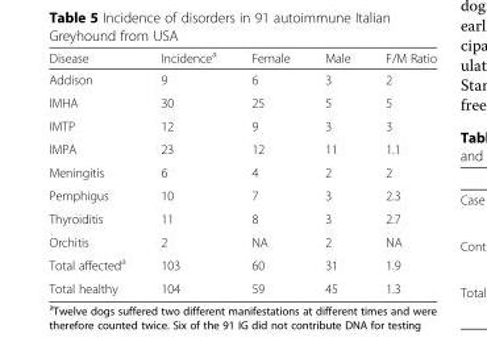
<table><thead><tr><td>Disease</td><td>Incidence<sup>a</sup></td><td>Female</td><td>Male</td><td>F/M Ratio</td></tr></thead><tbody><tr><td>Addison</td><td>9</td><td>6</td><td>3</td><td>2</td></tr><tr><td>IMHA</td><td>30</td><td>25</td><td>5</td><td>5</td></tr><tr><td>IMTP</td><td>12</td><td>9</td><td>3</td><td>3</td></tr><tr><td>IMPA</td><td>23</td><td>12</td><td>11</td><td>1.1</td></tr><tr><td>Meningitis</td><td>6</td><td>4</td><td>2</td><td>2</td></tr><tr><td>Pemphigus</td><td>10</td><td>7</td><td>3</td><td>2.3</td></tr><tr><td>Thyroiditis</td><td>11</td><td>8</td><td>3</td><td>2.7</td></tr><tr><td>Orchitis</td><td>2</td><td>NA</td><td>2</td><td>NA</td></tr><tr><td>Total affected<sup>a</sup></td><td>103</td><td>60</td><td>31</td><td>1.9</td></tr><tr><td>Total healthy</td><td>104</td><td>59</td><td>45</td><td>1.3</td></tr></tbody></table>